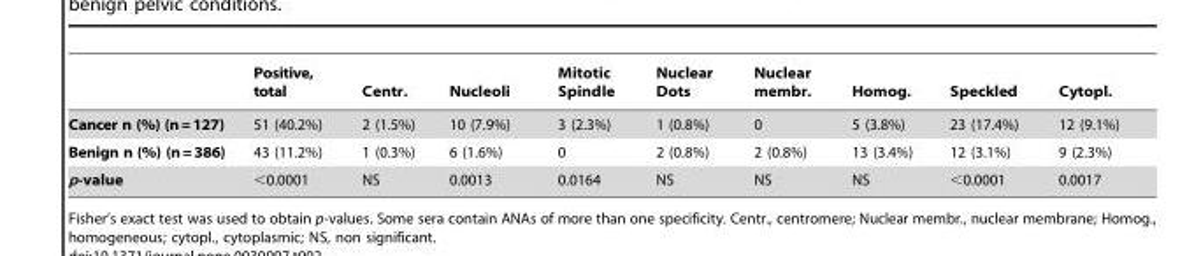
<table><thead><tr><td></td><td>Positive, total</td><td>Centr.</td><td>Nucleoli</td><td>Mitotic Spindle</td><td>Nuclear Dots</td><td>Nuclear membr.</td><td>Homog.</td><td>Speckled</td><td>Cytopl.</td></tr></thead><tbody><tr><td>Cancer n (%) (n=127)</td><td>51 (40.2%)</td><td>2 (1.5%)</td><td>10 (7.9%)</td><td>3 (2.3%)</td><td>1 (0.8%)</td><td>0</td><td>5 (3.8%)</td><td>23 (17.4%)</td><td>12 (9.1%)</td></tr><tr><td>Benign n (%) (n=386)</td><td>43 (11.2%)</td><td>1 (0.3%)</td><td>6 (1.6%)</td><td>0</td><td>2 (0.8%)</td><td>2 (0.8%)</td><td>13 (3.4%)</td><td>12 (3.1%)</td><td>9 (2.3%)</td></tr><tr><td>p-value</td><td>&lt;0.0001</td><td>NS</td><td>0.0013</td><td>0.0164</td><td>NS</td><td>NS</td><td>NS</td><td>&lt;0.0001</td><td>0.0017</td></tr></tbody></table>